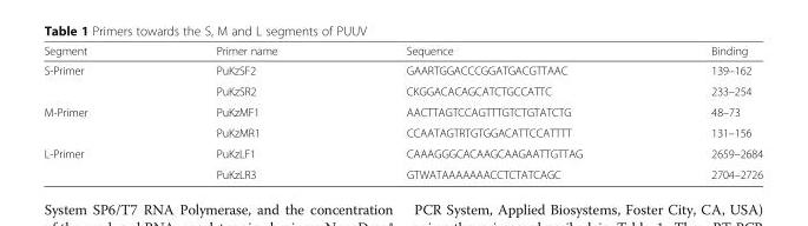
<table><thead><tr><td>Segment</td><td>Primer name</td><td>Sequence</td><td>Binding</td></tr></thead><tbody><tr><td rowspan="2">S-Primer</td><td>PuKzSF2</td><td>GAARTGGACCCGGATGACGTTAAC</td><td>139–162</td></tr><tr><td>PuKzSR2</td><td>CKGGACACAGCATCTGCCATTC</td><td>233–254</td></tr><tr><td rowspan="2">M-Primer</td><td>PuKzMF1</td><td>AACTTAGTCCAGTTTGTCTGTATCTG</td><td>48–73</td></tr><tr><td>PuKzMR1</td><td>CCAATAGTRTGTGGACATTCCATTTT</td><td>131–156</td></tr><tr><td rowspan="2">L-Primer</td><td>PuKzLF1</td><td>CAAAGGGCACAAGCAAGAATTGTTAG</td><td>2659–2684</td></tr><tr><td>PuKzLR3</td><td>GTWATAAAAAAACCTCTATCAGC</td><td>2704–2726</td></tr></tbody></table>